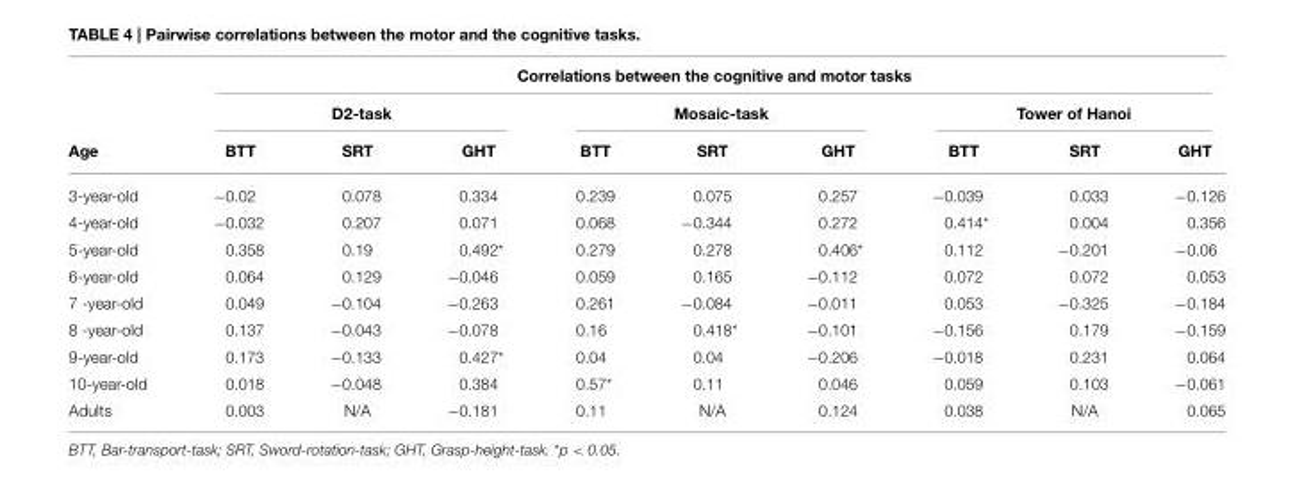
<table><thead><tr><td rowspan="3">Age</td><td colspan="9">Correlations between the cognitive and motor tasks</td></tr><tr><td colspan="3">D2-task</td><td colspan="3">Mosaic-task</td><td colspan="3">Tower of Hanoi</td></tr><tr><td>BTT</td><td>SRT</td><td>GHT</td><td>BTT</td><td>SRT</td><td>GHT</td><td>BTT</td><td>SRT</td><td>GHT</td></tr></thead><tbody><tr><td>3-year-old</td><td>−0.02</td><td>0.078</td><td>0.334</td><td>0.239</td><td>0.075</td><td>0.257</td><td>−0.039</td><td>0.033</td><td>−0.126</td></tr><tr><td>4-year-old</td><td>−0.032</td><td>0.207</td><td>0.071</td><td>0.068</td><td>−0.344</td><td>0.272</td><td>0.414*</td><td>0.004</td><td>0.356</td></tr><tr><td>5-year-old</td><td>0.358</td><td>0.19</td><td>0.492*</td><td>0.279</td><td>0.278</td><td>0.406*</td><td>0.112</td><td>−0.201</td><td>−0.06</td></tr><tr><td>6-year-old</td><td>0.064</td><td>0.129</td><td>−0.046</td><td>0.059</td><td>0.165</td><td>−0.112</td><td>0.072</td><td>0.072</td><td>0.053</td></tr><tr><td>7 -year-old</td><td>0.049</td><td>−0.104</td><td>−0.263</td><td>0.261</td><td>−0.084</td><td>−0.011</td><td>0.053</td><td>−0.325</td><td>−0.184</td></tr><tr><td>8 -year-old</td><td>0.137</td><td>−0.043</td><td>−0.078</td><td>0.16</td><td>0.418*</td><td>−0.101</td><td>−0.156</td><td>0.179</td><td>−0.159</td></tr><tr><td>9-year-old</td><td>0.173</td><td>−0.133</td><td>0.427*</td><td>0.04</td><td>0.04</td><td>−0.206</td><td>−0.018</td><td>0.231</td><td>0.064</td></tr><tr><td>10-year-old</td><td>0.018</td><td>−0.048</td><td>0.384</td><td>0.57*</td><td>0.11</td><td>0.046</td><td>0.059</td><td>0.103</td><td>−0.061</td></tr><tr><td>Adults</td><td>0.003</td><td>N/A</td><td>−0.181</td><td>0.11</td><td>N/A</td><td>0.124</td><td>0.038</td><td>N/A</td><td>0.065</td></tr></tbody></table>